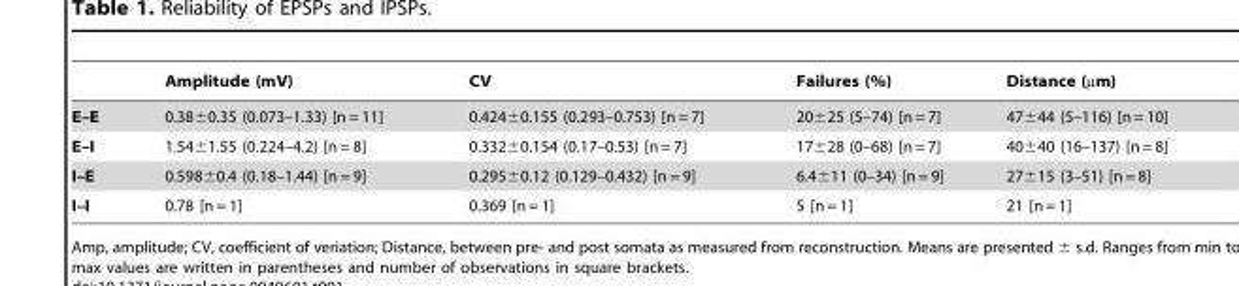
<table><thead><tr><td></td><td>Amplitude (mV)</td><td>CV</td><td>Failures (%)</td><td>Distance (µm)</td></tr></thead><tbody><tr><td>E–E</td><td>0.38±0.35 (0.073–1.33) [n = 11]</td><td>0.424±0.155 (0.293–0.753) [n = 7]</td><td>20±25 (5–74) [n = 7]</td><td>47±44 (5–116) [n = 10]</td></tr><tr><td>E–I</td><td>1.54±1.55 (0.224–4.2) [n = 8]</td><td>0.332±0.154 (0.17–0.53) [n = 7]</td><td>17±28 (0–68) [n = 7]</td><td>40±40 (16–137) [n = 8]</td></tr><tr><td>I–E</td><td>0.598±0.4 (0.18–1.44) [n = 9]</td><td>0.295±0.12 (0.129–0.432) [n = 9]</td><td>6.4±11 (0–34) [n = 9]</td><td>27±15 (3–51) [n = 8]</td></tr><tr><td>I–I</td><td>0.78 [n = 1]</td><td>0.369 [n = 1]</td><td>5 [n = 1]</td><td>21 [n = 1]</td></tr></tbody></table>